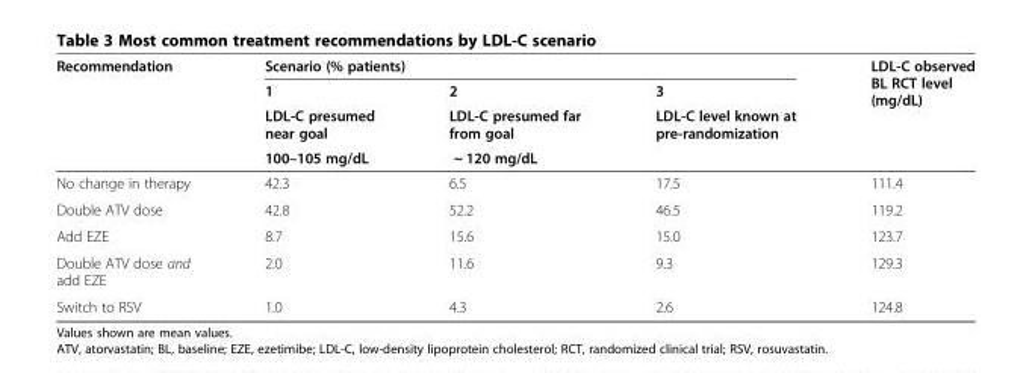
<table><thead><tr><td rowspan="4">Recommendation</td><td colspan="3">Scenario (% patients)</td><td rowspan="4">LDL-C observed BL RCT level (mg/dL)</td></tr><tr><td rowspan="3">1 LDL-C presumed near goal 100–105 mg/dL</td><td rowspan="3">2 LDL-C presumed far from goal ~ 120 mg/dL</td><td rowspan="3">3 LDL-C level known at pre-randomization</td></tr><tr></tr><tr></tr></thead><tbody><tr><td>No change in therapy</td><td>42.3</td><td>6.5</td><td>17.5</td><td>111.4</td></tr><tr><td>Double ATV dose</td><td>42.8</td><td>52.2</td><td>46.5</td><td>119.2</td></tr><tr><td>Add EZE</td><td>8.7</td><td>15.6</td><td>15.0</td><td>123.7</td></tr><tr><td>Double ATV dose and add EZE</td><td>2.0</td><td>11.6</td><td>9.3</td><td>129.3</td></tr><tr><td>Switch to RSV</td><td>1.0</td><td>4.3</td><td>2.6</td><td>124.8</td></tr></tbody></table>